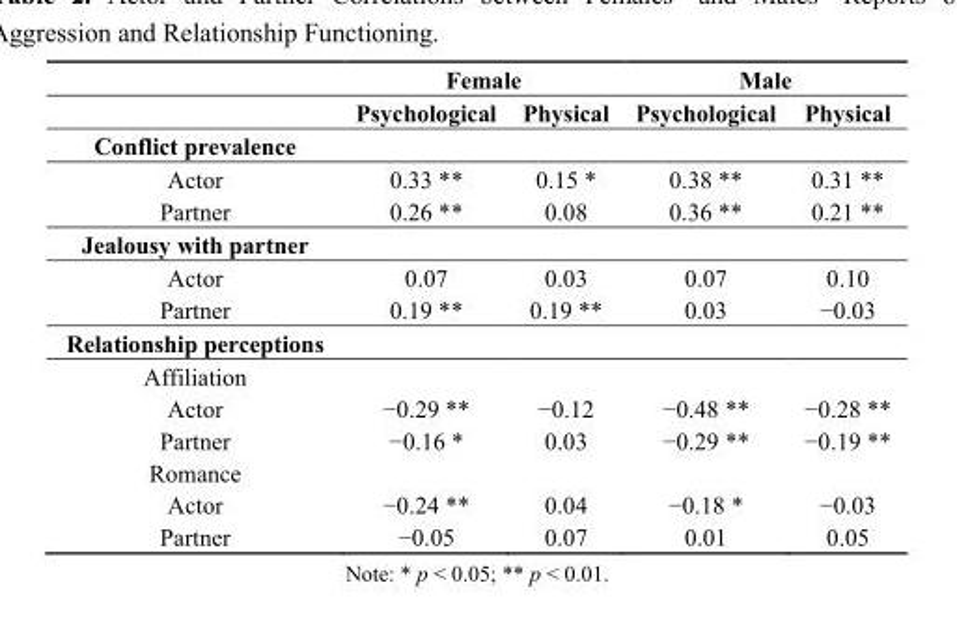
<table><thead><tr><td rowspan="2"></td><td colspan="2">Female</td><td colspan="2">Male</td></tr><tr><td>Psychological</td><td>Physical</td><td>Psychological</td><td>Physical</td></tr></thead><tbody><tr><td colspan="5">Conflict prevalence</td></tr><tr><td>Actor</td><td>0.33 **</td><td>0.15 *</td><td>0.38 **</td><td>0.31 **</td></tr><tr><td>Partner</td><td>0.26 **</td><td>0.08</td><td>0.36 **</td><td>0.21 **</td></tr><tr><td colspan="5">Jealousy with partner</td></tr><tr><td>Actor</td><td>0.07</td><td>0.03</td><td>0.07</td><td>0.10</td></tr><tr><td>Partner</td><td>0.19 **</td><td>0.19 **</td><td>0.03</td><td>−0.03</td></tr><tr><td colspan="5">Relationship perceptions</td></tr><tr><td colspan="5">Affiliation</td></tr><tr><td>Actor</td><td>−0.29 **</td><td>−0.12</td><td>−0.48 **</td><td>−0.28 **</td></tr><tr><td>Partner</td><td>−0.16 *</td><td>0.03</td><td>−0.29 **</td><td>−0.19 **</td></tr><tr><td colspan="5">Romance</td></tr><tr><td>Actor</td><td>−0.24 **</td><td>0.04</td><td>−0.18 *</td><td>−0.03</td></tr><tr><td>Partner</td><td>−0.05</td><td>0.07</td><td>0.01</td><td>0.05</td></tr></tbody></table>